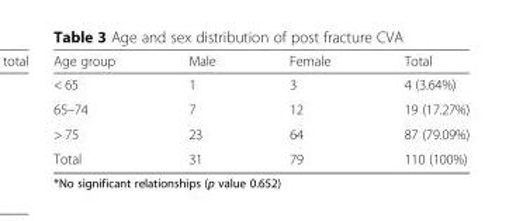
<table><thead><tr><td>Age group</td><td>Male</td><td>Female</td><td>Total</td></tr></thead><tbody><tr><td>&lt; 65</td><td>1</td><td>3</td><td>4 (3.64%)</td></tr><tr><td>65–74</td><td>7</td><td>12</td><td>19 (17.27%)</td></tr><tr><td>&gt; 75</td><td>23</td><td>64</td><td>87 (79.09%)</td></tr><tr><td>Total</td><td>31</td><td>79</td><td>110 (100%)</td></tr></tbody></table>